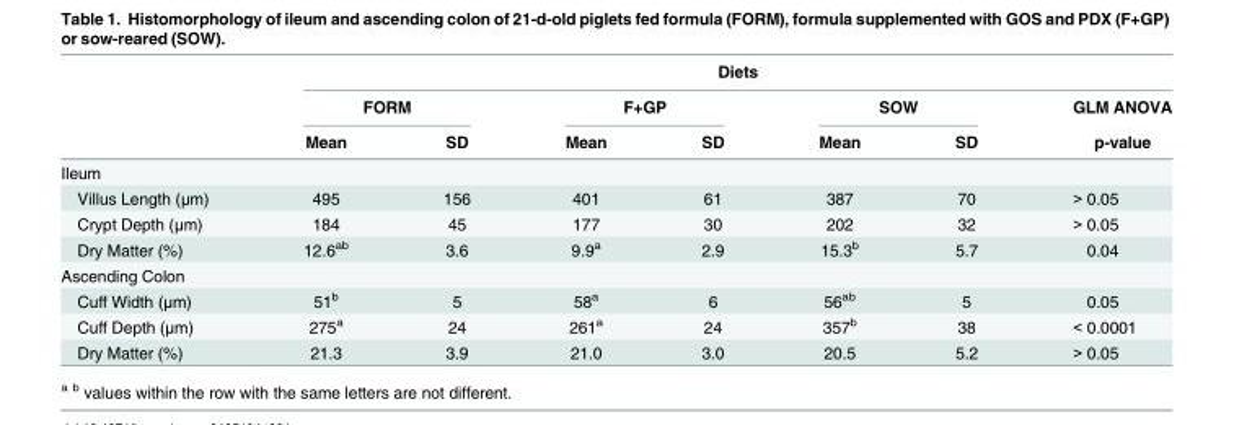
<table><thead><tr><td rowspan="3"></td><td colspan="7">Diets</td></tr><tr><td colspan="2">FORM</td><td colspan="2">F+GP</td><td colspan="2">SOW</td><td rowspan="2">GLM ANOVA p-value</td></tr><tr><td>Mean</td><td>SD</td><td>Mean</td><td>SD</td><td>Mean</td><td>SD</td></tr></thead><tbody><tr><td colspan="8">Ileum</td></tr><tr><td>Villus Length (μm)</td><td>495</td><td>156</td><td>401</td><td>61</td><td>387</td><td>70</td><td>&gt; 0.05</td></tr><tr><td>Crypt Depth (μm)</td><td>184</td><td>45</td><td>177</td><td>30</td><td>202</td><td>32</td><td>&gt; 0.05</td></tr><tr><td>Dry Matter (%)</td><td>12.6<sup>ab</sup></td><td>3.6</td><td>9.9<sup>a</sup></td><td>2.9</td><td>15.3<sup>b</sup></td><td>5.7</td><td>0.04</td></tr><tr><td colspan="8">Ascending Colon</td></tr><tr><td>Cuff Width (μm)</td><td>51<sup>b</sup></td><td>5</td><td>58<sup>a</sup></td><td>6</td><td>56<sup>ab</sup></td><td>5</td><td>0.05</td></tr><tr><td>Cuff Depth (μm)</td><td>275<sup>a</sup></td><td>24</td><td>261<sup>a</sup></td><td>24</td><td>357<sup>b</sup></td><td>38</td><td>&lt; 0.0001</td></tr><tr><td>Dry Matter (%)</td><td>21.3</td><td>3.9</td><td>21.0</td><td>3.0</td><td>20.5</td><td>5.2</td><td>&gt; 0.05</td></tr></tbody></table>